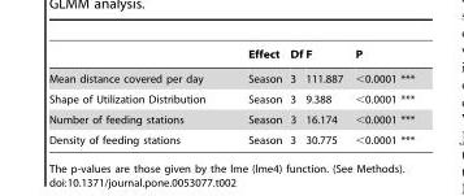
<table><thead><tr><td></td><td>Effect</td><td>Df</td><td>F</td><td>P</td></tr></thead><tbody><tr><td>Mean distance covered per day</td><td>Season</td><td>3</td><td>111.887</td><td>&lt;0.0001 ***</td></tr><tr><td>Shape of Utilization Distribution</td><td>Season</td><td>3</td><td>9.388</td><td>&lt;0.0001 ***</td></tr><tr><td>Number of feeding stations</td><td>Season</td><td>3</td><td>16.174</td><td>&lt;0.0001 ***</td></tr><tr><td>Density of feeding stations</td><td>Season</td><td>3</td><td>30.775</td><td>&lt;0.0001 ***</td></tr></tbody></table>